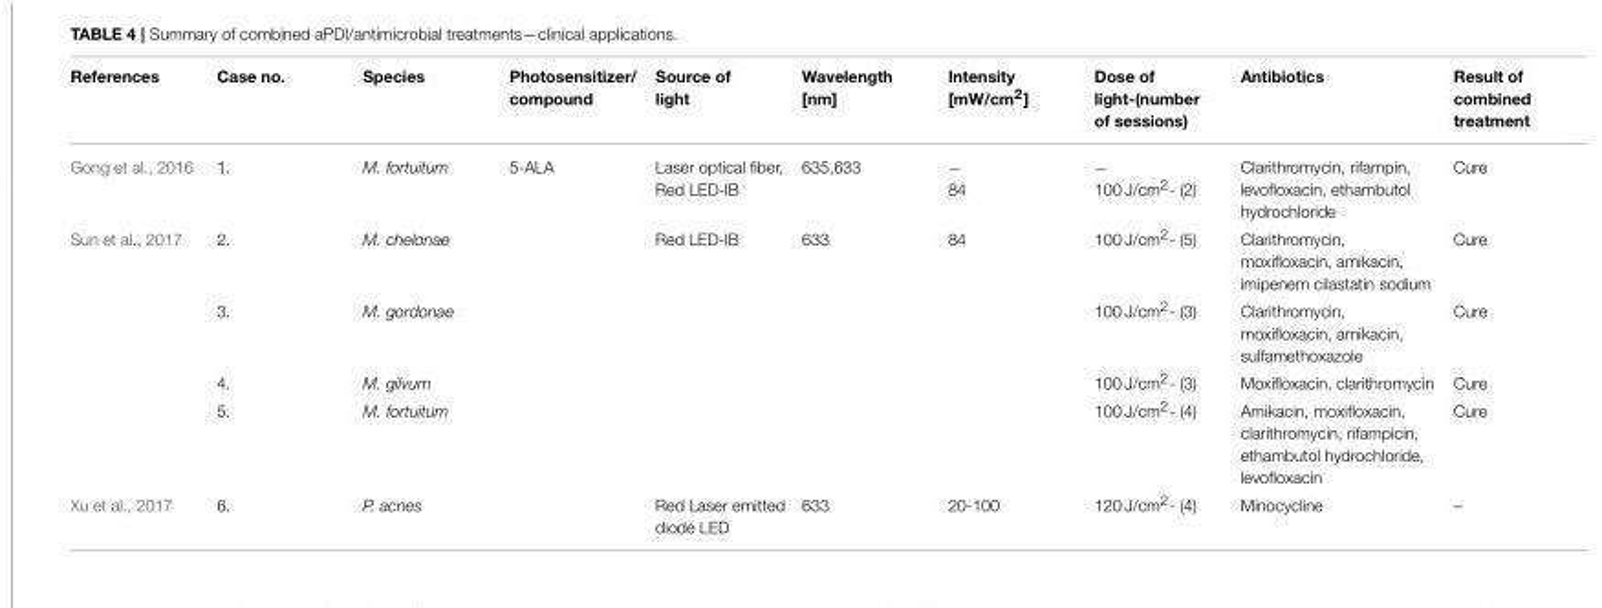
<table><thead><tr><td>References</td><td>Case no.</td><td>Species</td><td>Photosensitizer/ compound</td><td>Source of light</td><td>Wavelength [nm]</td><td>Intensity [mW/cm<sup>2</sup>]</td><td>Dose of light-(number of sessions)</td><td>Antibiotics</td><td>Result of combined treatment</td></tr></thead><tbody><tr><td>Gong et al., 2016</td><td>1.</td><td>M. fortuitum</td><td>5-ALA</td><td>Laser optical fiber, Red LED-IB</td><td>635,633</td><td>− 84</td><td>− 100 J/cm<sup>2</sup>- (2)</td><td>Clarithromycin, rifampin, levofloxacin, ethambutol hydrochloride</td><td>Cure</td></tr><tr><td rowspan="4">Sun et al., 2017</td><td>2.</td><td>M. chelonae</td><td></td><td>Red LED-IB</td><td>633</td><td>84</td><td>100 J/cm<sup>2</sup>- (5)</td><td>Clarithromycin, moxifloxacin, amikacin, imipenem cilastatin sodium</td><td>Cure</td></tr><tr><td>3.</td><td>M. gordonae</td><td></td><td></td><td></td><td></td><td>100 J/cm<sup>2</sup>- (3)</td><td>Clarithromycin, moxifloxacin, amikacin, sulfamethoxazole</td><td>Cure</td></tr><tr><td>4.</td><td>M. gilvum</td><td></td><td></td><td></td><td></td><td>100 J/cm<sup>2</sup>- (3)</td><td>Moxifloxacin, clarithromycin</td><td>Cure</td></tr><tr><td>5.</td><td>M. fortuitum</td><td></td><td></td><td></td><td></td><td>100 J/cm<sup>2</sup>- (4)</td><td>Amikacin, moxifloxacin, clarithromycin, rifampicin, ethambutol hydrochloride, levofloxacin</td><td>Cure</td></tr><tr><td>Xu et al., 2017</td><td>6.</td><td>P. acnes</td><td></td><td>Red Laser emitted diode LED</td><td>633</td><td>20-100</td><td>120 J/cm<sup>2</sup>- (4)</td><td>Minocycline</td><td>–</td></tr></tbody></table>